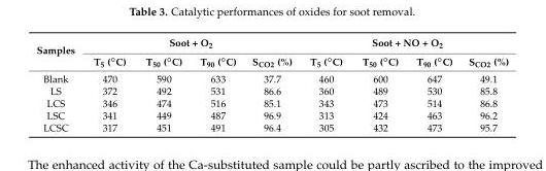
<table><thead><tr><td rowspan="2">Samples</td><td colspan="4">Soot + O<sub>2</sub></td><td colspan="4">Soot + NO + O<sub>2</sub></td></tr><tr><td>T5 (◦C)</td><td>T50 (◦C)</td><td>T90 (◦C)</td><td>S<sub>CO2</sub> (%)</td><td>T5 (◦C)</td><td>T50 (◦C)</td><td>T90 (◦C)</td><td>S<sub>CO2</sub> (%)</td></tr></thead><tbody><tr><td>Blank</td><td>470</td><td>590</td><td>633</td><td>37.7</td><td>460</td><td>600</td><td>647</td><td>49.1</td></tr><tr><td>LS</td><td>372</td><td>492</td><td>531</td><td>86.6</td><td>360</td><td>489</td><td>530</td><td>85.8</td></tr><tr><td>LCS</td><td>346</td><td>474</td><td>516</td><td>85.1</td><td>343</td><td>473</td><td>514</td><td>86.8</td></tr><tr><td>LSC</td><td>341</td><td>449</td><td>487</td><td>96.9</td><td>313</td><td>424</td><td>463</td><td>96.2</td></tr><tr><td>LCSC</td><td>317</td><td>451</td><td>491</td><td>96.4</td><td>305</td><td>432</td><td>473</td><td>95.7</td></tr></tbody></table>